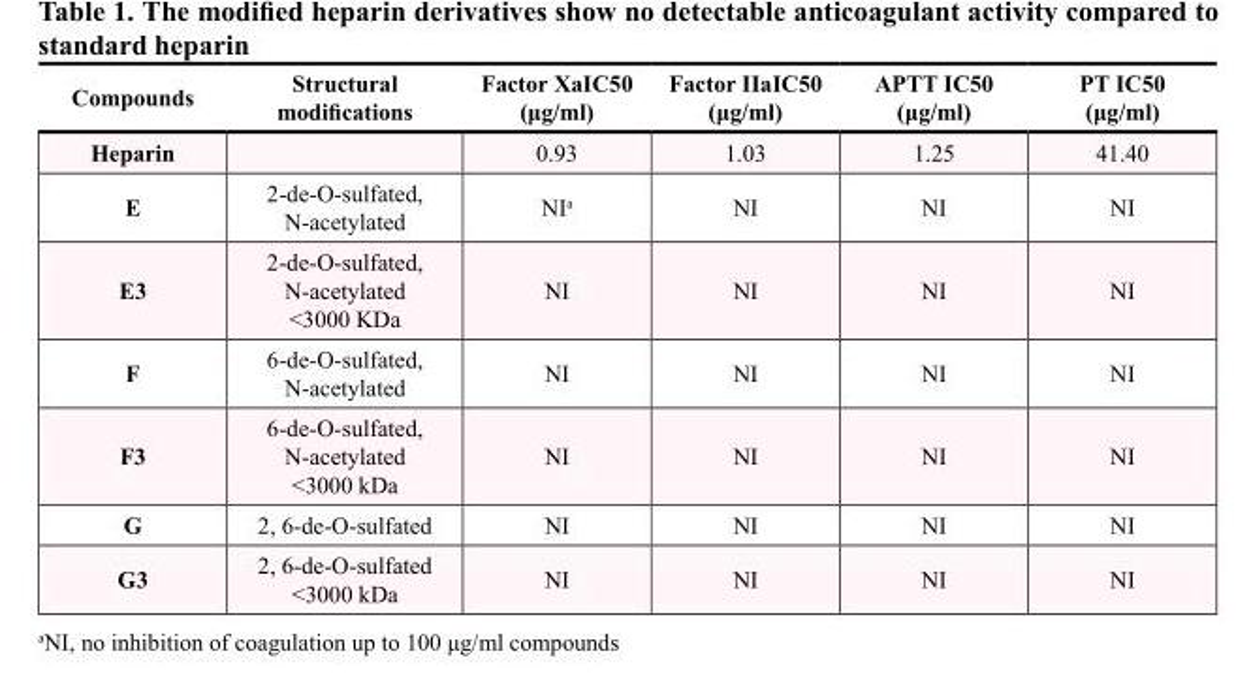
<table><thead><tr><td>Compounds</td><td>Structural modifications</td><td>Factor XaIC50 (μg/ml)</td><td>Factor IIaIC50 (μg/ml)</td><td>APTT IC50 (μg/ml)</td><td>PT IC50 (μg/ml)</td></tr></thead><tbody><tr><td>Heparin</td><td></td><td>0.93</td><td>1.03</td><td>1.25</td><td>41.40</td></tr><tr><td>E</td><td>2-de-O-sulfated, N-acetylated</td><td>NI<sup>a</sup></td><td>NI</td><td>NI</td><td>NI</td></tr><tr><td>E3</td><td>2-de-O-sulfated, N-acetylated &lt;3000 KDa</td><td>NI</td><td>NI</td><td>NI</td><td>NI</td></tr><tr><td>F</td><td>6-de-O-sulfated, N-acetylated</td><td>NI</td><td>NI</td><td>NI</td><td>NI</td></tr><tr><td>F3</td><td>6-de-O-sulfated, N-acetylated &lt;3000 kDa</td><td>NI</td><td>NI</td><td>NI</td><td>NI</td></tr><tr><td>G</td><td>2, 6-de-O-sulfated</td><td>NI</td><td>NI</td><td>NI</td><td>NI</td></tr><tr><td>G3</td><td>2, 6-de-O-sulfated &lt;3000 kDa</td><td>NI</td><td>NI</td><td>NI</td><td>NI</td></tr></tbody></table>